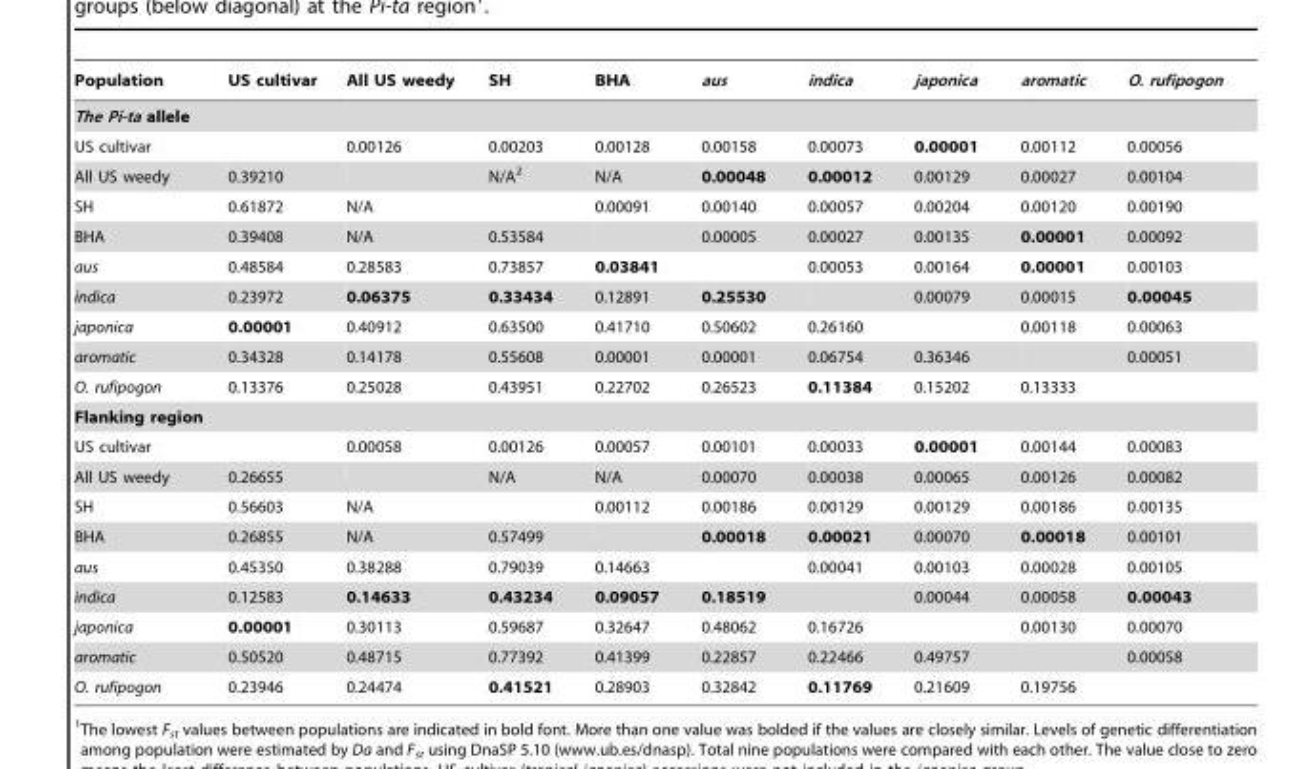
<table><thead><tr><td>Population</td><td>US cultivar</td><td>All US weedy</td><td>SH</td><td>BHA</td><td>aus</td><td>indica</td><td>japonica</td><td>aromatic</td><td>O. rufipogon</td></tr></thead><tbody><tr><td colspan="10">The Pi-ta allele</td></tr><tr><td>US cultivar</td><td></td><td>0.00126</td><td>0.00203</td><td>0.00128</td><td>0.00158</td><td>0.00073</td><td>0.00001</td><td>0.00112</td><td>0.00056</td></tr><tr><td>All US weedy</td><td>0.39210</td><td></td><td>N/A<sup>2</sup></td><td>N/A</td><td>0.00048</td><td>0.00012</td><td>0.00129</td><td>0.00027</td><td>0.00104</td></tr><tr><td>SH</td><td>0.61872</td><td>N/A</td><td></td><td>0.00091</td><td>0.00140</td><td>0.00057</td><td>0.00204</td><td>0.00120</td><td>0.00190</td></tr><tr><td>BHA</td><td>0.39408</td><td>N/A</td><td>0.53584</td><td></td><td>0.00005</td><td>0.00027</td><td>0.00135</td><td>0.00001</td><td>0.00092</td></tr><tr><td>aus</td><td>0.48584</td><td>0.28583</td><td>0.73857</td><td>0.03841</td><td></td><td>0.00053</td><td>0.00164</td><td>0.00001</td><td>0.00103</td></tr><tr><td>indica</td><td>0.23972</td><td>0.06375</td><td>0.33434</td><td>0.12891</td><td>0.25530</td><td></td><td>0.00079</td><td>0.00015</td><td>0.00045</td></tr><tr><td>japonica</td><td>0.00001</td><td>0.40912</td><td>0.63500</td><td>0.41710</td><td>0.50602</td><td>0.26160</td><td></td><td>0.00118</td><td>0.00063</td></tr><tr><td>aromatic</td><td>0.34328</td><td>0.14178</td><td>0.55608</td><td>0.00001</td><td>0.00001</td><td>0.06754</td><td>0.36346</td><td></td><td>0.00051</td></tr><tr><td>O. rufipogon</td><td>0.13376</td><td>0.25028</td><td>0.43951</td><td>0.22702</td><td>0.26523</td><td>0.11384</td><td>0.15202</td><td>0.13333</td><td></td></tr><tr><td colspan="10">Flanking region</td></tr><tr><td>US cultivar</td><td></td><td>0.00058</td><td>0.00126</td><td>0.00057</td><td>0.00101</td><td>0.00033</td><td>0.00001</td><td>0.00144</td><td>0.00083</td></tr><tr><td>All US weedy</td><td>0.26655</td><td></td><td>N/A</td><td>N/A</td><td>0.00070</td><td>0.00038</td><td>0.00065</td><td>0.00126</td><td>0.00082</td></tr><tr><td>SH</td><td>0.56603</td><td>N/A</td><td></td><td>0.00112</td><td>0.00186</td><td>0.00129</td><td>0.00129</td><td>0.00186</td><td>0.00135</td></tr><tr><td>BHA</td><td>0.26855</td><td>N/A</td><td>0.57499</td><td></td><td>0.00018</td><td>0.00021</td><td>0.00070</td><td>0.00018</td><td>0.00101</td></tr><tr><td>aus</td><td>0.45350</td><td>0.38288</td><td>0.79039</td><td>0.14663</td><td></td><td>0.00041</td><td>0.00103</td><td>0.00028</td><td>0.00105</td></tr><tr><td>indica</td><td>0.12583</td><td>0.14633</td><td>0.43234</td><td>0.09057</td><td>0.18519</td><td></td><td>0.00044</td><td>0.00058</td><td>0.00043</td></tr><tr><td>japonica</td><td>0.00001</td><td>0.30113</td><td>0.59687</td><td>0.32647</td><td>0.48062</td><td>0.16726</td><td></td><td>0.00130</td><td>0.00070</td></tr><tr><td>aromatic</td><td>0.50520</td><td>0.48715</td><td>0.77392</td><td>0.41399</td><td>0.22857</td><td>0.22466</td><td>0.49757</td><td></td><td>0.00058</td></tr><tr><td>O. rufipogon</td><td>0.23946</td><td>0.24474</td><td>0.41521</td><td>0.28903</td><td>0.32842</td><td>0.11769</td><td>0.21609</td><td>0.19756</td><td></td></tr></tbody></table>